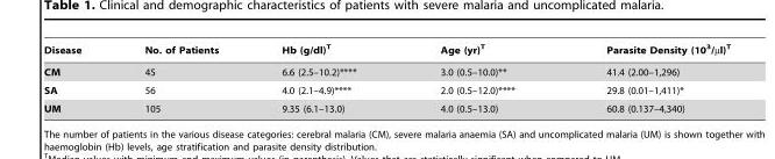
<table><thead><tr><td>Disease</td><td>No. of Patients</td><td>Hb (g/dl)<sup>T</sup></td><td>Age (yr)<sup>T</sup></td><td>Parasite Density (10<sup>3</sup>/µl)<sup>T</sup></td></tr></thead><tbody><tr><td>CM</td><td>45</td><td>6.6 (2.5–10.2)****</td><td>3.0 (0.5–10.0)**</td><td>41.4 (2.00–1,296)</td></tr><tr><td>SA</td><td>56</td><td>4.0 (2.1–4.9)****</td><td>2.0 (0.5–12.0)****</td><td>29.8 (0.01–1,411)*</td></tr><tr><td>UM</td><td>105</td><td>9.35 (6.1–13.0)</td><td>4.0 (0.5–13.0)</td><td>60.8 (0.137–4,340)</td></tr></tbody></table>